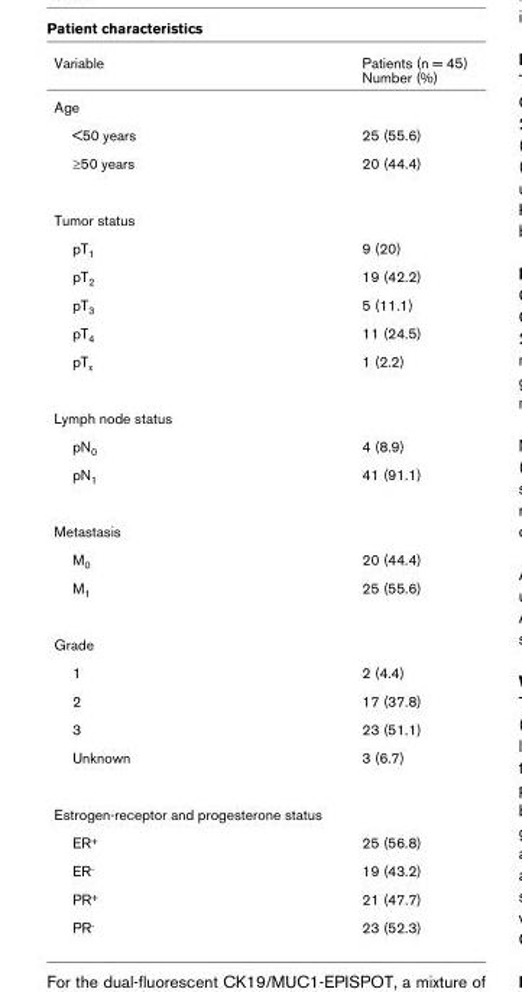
<table><thead><tr><td>Variable</td><td>Patients (n = 45) Number (%)</td></tr></thead><tbody><tr><td colspan="2">Age</td></tr><tr><td>&lt;50 years</td><td>25 (55.6)</td></tr><tr><td>≥50 years</td><td>20 (44.4)</td></tr><tr><td colspan="2">Tumor status</td></tr><tr><td>pT<sub>1</sub></td><td>9 (20)</td></tr><tr><td>pT<sub>2</sub></td><td>19 (42.2)</td></tr><tr><td>pT<sub>3</sub></td><td>5 (11.1)</td></tr><tr><td>pT<sub>4</sub></td><td>11 (24.5)</td></tr><tr><td>pT<sub>x</sub></td><td>1 (2.2)</td></tr><tr><td colspan="2">Lymph node status</td></tr><tr><td>pN<sub>0</sub></td><td>4 (8.9)</td></tr><tr><td>pN<sub>1</sub></td><td>41 (91.1)</td></tr><tr><td colspan="2">Metastasis</td></tr><tr><td>M<sub>0</sub></td><td>20 (44.4)</td></tr><tr><td>M<sub>1</sub></td><td>25 (55.6)</td></tr><tr><td colspan="2">Grade</td></tr><tr><td>1</td><td>2 (4.4)</td></tr><tr><td>2</td><td>17 (37.8)</td></tr><tr><td>3</td><td>23 (51.1)</td></tr><tr><td>Unknown</td><td>3 (6.7)</td></tr><tr><td colspan="2">Estrogen-receptor and progesterone status</td></tr><tr><td>ER<sup>+</sup></td><td>25 (56.8)</td></tr><tr><td>ER<sup>-</sup></td><td>19 (43.2)</td></tr><tr><td>PR<sup>+</sup></td><td>21 (47.7)</td></tr><tr><td>PR<sup>-</sup></td><td>23 (52.3)</td></tr></tbody></table>